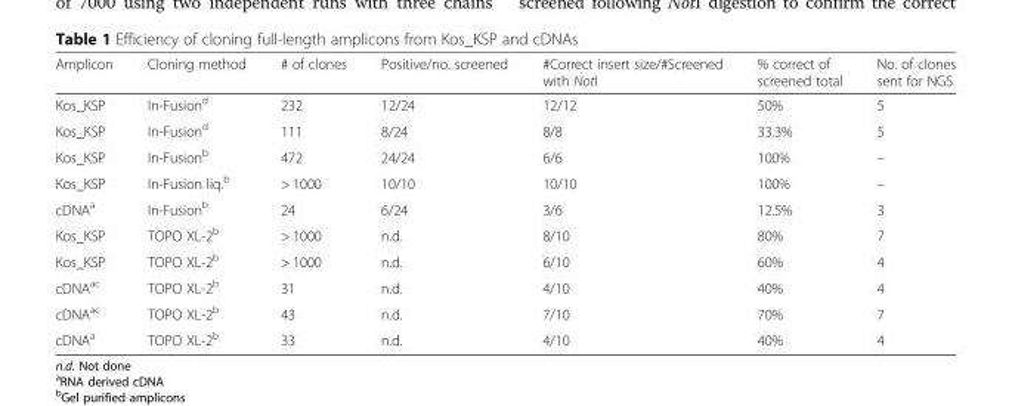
<table><thead><tr><td>Amplicon</td><td>Cloning method</td><td># of clones</td><td>Positive/no. screened</td><td>#Correct insert size/#Screened with NotI</td><td>% correct of screened total</td><td>No. of clones sent for NGS</td></tr></thead><tbody><tr><td>Kos_KSP</td><td>In-Fusion<sup>d</sup></td><td>232</td><td>12/24</td><td>12/12</td><td>50%</td><td>5</td></tr><tr><td>Kos_KSP</td><td>In-Fusion<sup>d</sup></td><td>111</td><td>8/24</td><td>8/8</td><td>33.3%</td><td>5</td></tr><tr><td>Kos_KSP</td><td>In-Fusion<sup>b</sup></td><td>472</td><td>24/24</td><td>6/6</td><td>100%</td><td>–</td></tr><tr><td>Kos_KSP</td><td>In-Fusion liq.<sup>b</sup></td><td>&gt; 1000</td><td>10/10</td><td>10/10</td><td>100%</td><td>–</td></tr><tr><td>cDNA<sup>a</sup></td><td>In-Fusion<sup>b</sup></td><td>24</td><td>6/24</td><td>3/6</td><td>12.5%</td><td>3</td></tr><tr><td>Kos_KSP</td><td>TOPO XL-2<sup>b</sup></td><td>&gt; 1000</td><td>n.d.</td><td>8/10</td><td>80%</td><td>7</td></tr><tr><td>Kos_KSP</td><td>TOPO XL-2<sup>b</sup></td><td>&gt; 1000</td><td>n.d.</td><td>6/10</td><td>60%</td><td>4</td></tr><tr><td>cDNA<sup>ac</sup></td><td>TOPO XL-2<sup>b</sup></td><td>31</td><td>n.d.</td><td>4/10</td><td>40%</td><td>4</td></tr><tr><td>cDNA<sup>ac</sup></td><td>TOPO XL-2<sup>b</sup></td><td>43</td><td>n.d.</td><td>7/10</td><td>70%</td><td>7</td></tr><tr><td>cDNA<sup>a</sup></td><td>TOPO XL-2<sup>b</sup></td><td>33</td><td>n.d.</td><td>4/10</td><td>40%</td><td>4</td></tr></tbody></table>